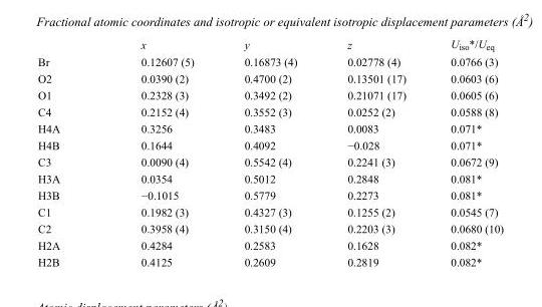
<table><thead><tr><td></td><td>x</td><td>y</td><td>z</td><td>U<sub>iso</sub>*/U<sub>eq</sub></td></tr></thead><tbody><tr><td>Br</td><td>0.12607 (5)</td><td>0.16873 (4)</td><td>0.02778 (4)</td><td>0.0766 (3)</td></tr><tr><td>O2</td><td>0.0390 (2)</td><td>0.4700 (2)</td><td>0.13501 (17)</td><td>0.0603 (6)</td></tr><tr><td>O1</td><td>0.2328 (3)</td><td>0.3492 (2)</td><td>0.21071 (17)</td><td>0.0605 (6)</td></tr><tr><td>C4</td><td>0.2152 (4)</td><td>0.3552 (3)</td><td>0.0252 (2)</td><td>0.0588 (8)</td></tr><tr><td>H4A</td><td>0.3256</td><td>0.3483</td><td>0.0083</td><td>0.071*</td></tr><tr><td>H4B</td><td>0.1644</td><td>0.4092</td><td>−0.028</td><td>0.071*</td></tr><tr><td>C3</td><td>0.0090 (4)</td><td>0.5542 (4)</td><td>0.2241 (3)</td><td>0.0672 (9)</td></tr><tr><td>H3A</td><td>0.0354</td><td>0.5012</td><td>0.2848</td><td>0.081*</td></tr><tr><td>H3B</td><td>−0.1015</td><td>0.5779</td><td>0.2273</td><td>0.081*</td></tr><tr><td>C1</td><td>0.1982 (3)</td><td>0.4327 (3)</td><td>0.1255 (2)</td><td>0.0545 (7)</td></tr><tr><td>C2</td><td>0.3958 (4)</td><td>0.3150 (4)</td><td>0.2203 (3)</td><td>0.0680 (10)</td></tr><tr><td>H2A</td><td>0.4284</td><td>0.2583</td><td>0.1628</td><td>0.082*</td></tr><tr><td>H2B</td><td>0.4125</td><td>0.2609</td><td>0.2819</td><td>0.082*</td></tr></tbody></table>